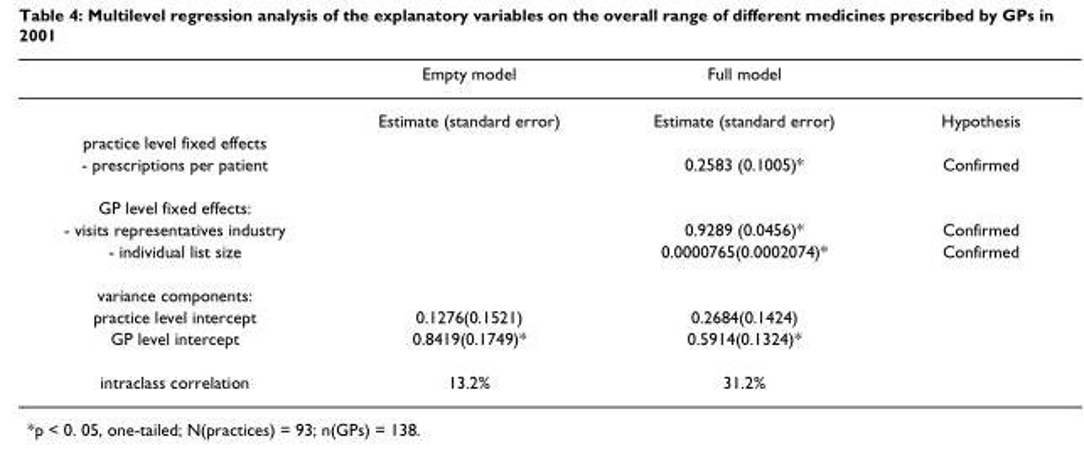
<table><thead><tr><td></td><td>Empty model</td><td>Full model</td><td></td></tr></thead><tbody><tr><td></td><td>Estimate (standard error)</td><td>Estimate (standard error)</td><td>Hypothesis</td></tr><tr><td colspan="4">practice level fixed effects</td></tr><tr><td>- prescriptions per patient</td><td></td><td>0.2583 (0.1005)*</td><td>Confirmed</td></tr><tr><td colspan="4">GP level fixed effects:</td></tr><tr><td>- visits representatives industry</td><td></td><td>0.9289 (0.0456)*</td><td>Confirmed</td></tr><tr><td>- individual list size</td><td></td><td>0.0000765(0.0002074)*</td><td>Confirmed</td></tr><tr><td colspan="4">variance components:</td></tr><tr><td>practice level intercept</td><td>0.1276(0.1521)</td><td>0.2684(0.1424)</td><td></td></tr><tr><td>GP level intercept</td><td>0.8419(0.1749)*</td><td>0.5914(0.1324)*</td><td></td></tr><tr><td>intraclass correlation</td><td>13.2%</td><td>31.2%</td><td></td></tr></tbody></table>